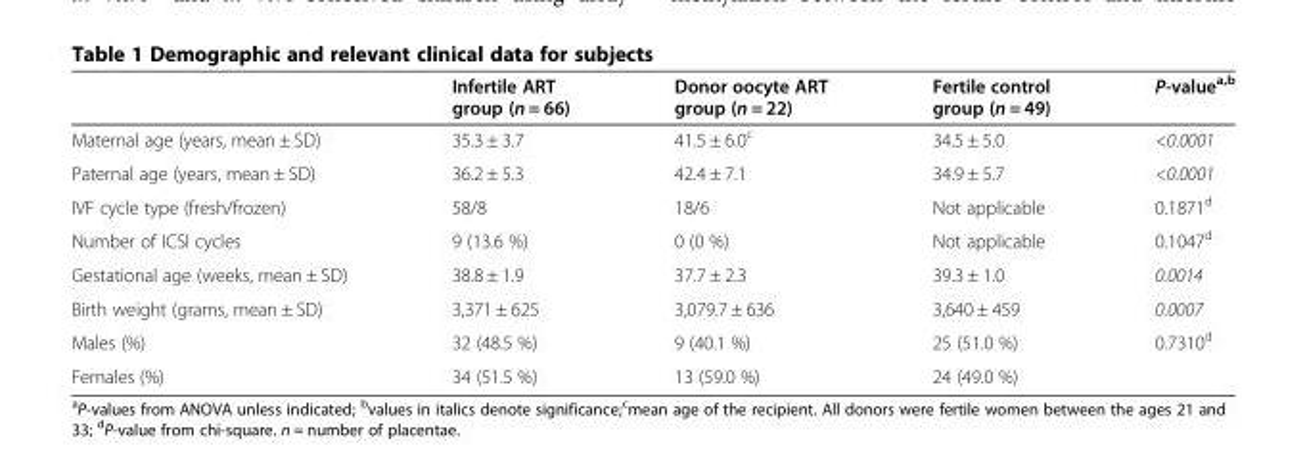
<table><thead><tr><td></td><td>Infertile ART group (n = 66)</td><td>Donor oocyte ART group (n = 22)</td><td>Fertile control group (n = 49)</td><td>P-value<sup>a,b</sup></td></tr></thead><tbody><tr><td>Maternal age (years, mean ± SD)</td><td>35.3 ± 3.7</td><td>41.5 ± 6.0<sup>c</sup></td><td>34.5 ± 5.0</td><td>&lt;0.0001</td></tr><tr><td>Paternal age (years, mean ± SD)</td><td>36.2 ± 5.3</td><td>42.4 ± 7.1</td><td>34.9 ± 5.7</td><td>&lt;0.0001</td></tr><tr><td>IVF cycle type (fresh/frozen)</td><td>58/8</td><td>18/6</td><td>Not applicable</td><td>0.1871<sup>d</sup></td></tr><tr><td>Number of ICSI cycles</td><td>9 (13.6 %)</td><td>0 (0 %)</td><td>Not applicable</td><td>0.1047<sup>d</sup></td></tr><tr><td>Gestational age (weeks, mean ± SD)</td><td>38.8 ± 1.9</td><td>37.7 ± 2.3</td><td>39.3 ± 1.0</td><td>0.0014</td></tr><tr><td>Birth weight (grams, mean ± SD)</td><td>3,371 ± 625</td><td>3,079.7 ± 636</td><td>3,640 ± 459</td><td>0.0007</td></tr><tr><td>Males (%)</td><td>32 (48.5 %)</td><td>9 (40.1 %)</td><td>25 (51.0 %)</td><td rowspan="2">0.7310<sup>d</sup></td></tr><tr><td>Females (%)</td><td>34 (51.5 %)</td><td>13 (59.0 %)</td><td>24 (49.0 %)</td></tr></tbody></table>